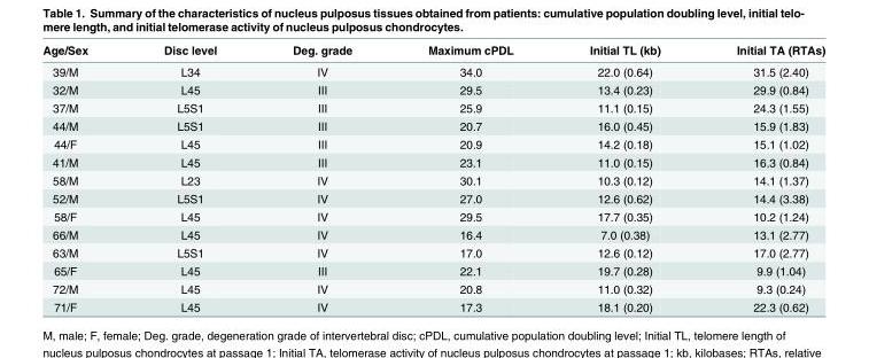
<table><thead><tr><td>Age/Sex</td><td>Disc level</td><td>Deg. grade</td><td>Maximum cPDL</td><td>Initial TL (kb)</td><td>Initial TA (RTAs)</td></tr></thead><tbody><tr><td>39/M</td><td>L34</td><td>IV</td><td>34.0</td><td>22.0 (0.64)</td><td>31.5 (2.40)</td></tr><tr><td>32/M</td><td>L45</td><td>III</td><td>29.5</td><td>13.4 (0.23)</td><td>29.9 (0.84)</td></tr><tr><td>37/M</td><td>L5S1</td><td>III</td><td>25.9</td><td>11.1 (0.15)</td><td>24.3 (1.55)</td></tr><tr><td>44/M</td><td>L5S1</td><td>III</td><td>20.7</td><td>16.0 (0.45)</td><td>15.9 (1.83)</td></tr><tr><td>44/F</td><td>L45</td><td>III</td><td>20.9</td><td>14.2 (0.18)</td><td>15.1 (1.02)</td></tr><tr><td>41/M</td><td>L45</td><td>III</td><td>23.1</td><td>11.0 (0.15)</td><td>16.3 (0.84)</td></tr><tr><td>58/M</td><td>L23</td><td>IV</td><td>30.1</td><td>10.3 (0.12)</td><td>14.1 (1.37)</td></tr><tr><td>52/M</td><td>L5S1</td><td>IV</td><td>27.0</td><td>12.6 (0.62)</td><td>14.4 (3.38)</td></tr><tr><td>58/F</td><td>L45</td><td>IV</td><td>29.5</td><td>17.7 (0.35)</td><td>10.2 (1.24)</td></tr><tr><td>66/M</td><td>L45</td><td>IV</td><td>16.4</td><td>7.0 (0.38)</td><td>13.1 (2.77)</td></tr><tr><td>63/M</td><td>L5S1</td><td>IV</td><td>17.0</td><td>12.6 (0.12)</td><td>17.0 (2.77)</td></tr><tr><td>65/F</td><td>L45</td><td>III</td><td>22.1</td><td>19.7 (0.28)</td><td>9.9 (1.04)</td></tr><tr><td>72/M</td><td>L45</td><td>IV</td><td>20.8</td><td>11.0 (0.32)</td><td>9.3 (0.24)</td></tr><tr><td>71/F</td><td>L45</td><td>IV</td><td>17.3</td><td>18.1 (0.20)</td><td>22.3 (0.62)</td></tr></tbody></table>